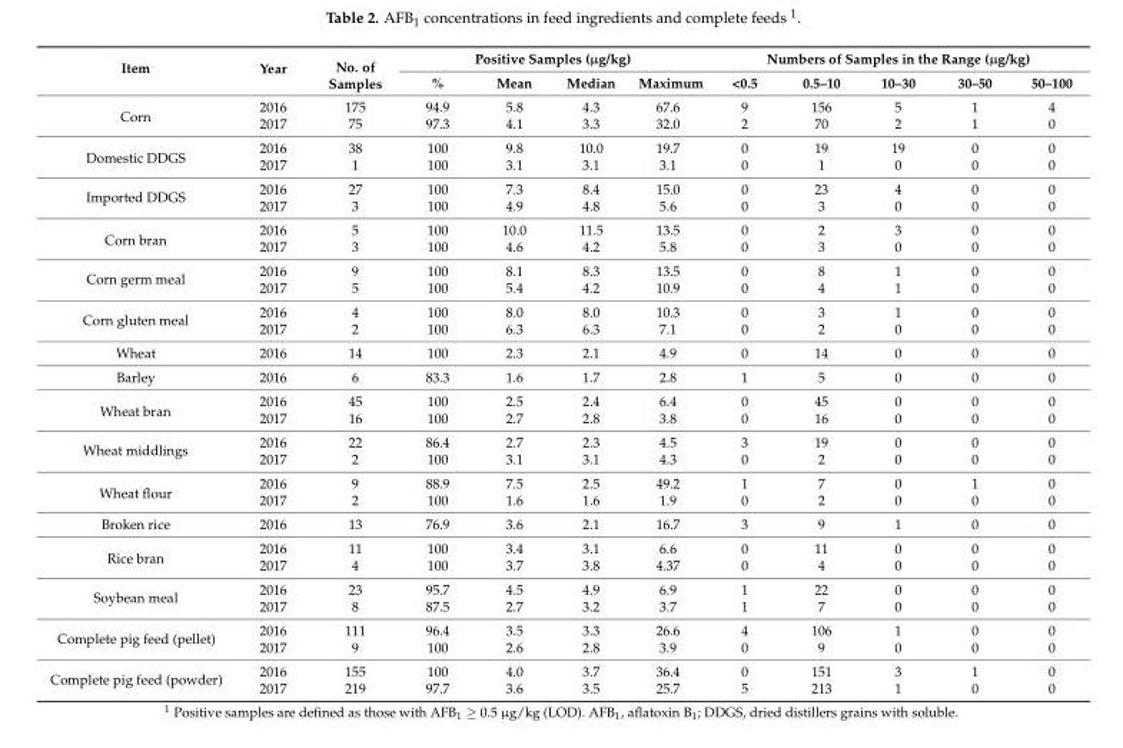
<table><thead><tr><td rowspan="2">Item</td><td rowspan="2">Year</td><td rowspan="2">No. of Samples</td><td colspan="4">Positive Samples (µg/kg)</td><td colspan="5">Numbers of Samples in the Range (µg/kg)</td></tr><tr><td>%</td><td>Mean</td><td>Median</td><td>Maximum</td><td>&lt;0.5</td><td>0.5–10</td><td>10–30</td><td>30–50</td><td>50–100</td></tr></thead><tbody><tr><td rowspan="2">Corn</td><td>2016</td><td>175</td><td>94.9</td><td>5.8</td><td>4.3</td><td>67.6</td><td>9</td><td>156</td><td>5</td><td>1</td><td>4</td></tr><tr><td>2017</td><td>75</td><td>97.3</td><td>4.1</td><td>3.3</td><td>32.0</td><td>2</td><td>70</td><td>2</td><td>1</td><td>0</td></tr><tr><td rowspan="2">Domestic DDGS</td><td>2016</td><td>38</td><td>100</td><td>9.8</td><td>10.0</td><td>19.7</td><td>0</td><td>19</td><td>19</td><td>0</td><td>0</td></tr><tr><td>2017</td><td>1</td><td>100</td><td>3.1</td><td>3.1</td><td>3.1</td><td>0</td><td>1</td><td>0</td><td>0</td><td>0</td></tr><tr><td rowspan="2">Imported DDGS</td><td>2016</td><td>27</td><td>100</td><td>7.3</td><td>8.4</td><td>15.0</td><td>0</td><td>23</td><td>4</td><td>0</td><td>0</td></tr><tr><td>2017</td><td>3</td><td>100</td><td>4.9</td><td>4.8</td><td>5.6</td><td>0</td><td>3</td><td>0</td><td>0</td><td>0</td></tr><tr><td rowspan="2">Corn bran</td><td>2016</td><td>5</td><td>100</td><td>10.0</td><td>11.5</td><td>13.5</td><td>0</td><td>2</td><td>3</td><td>0</td><td>0</td></tr><tr><td>2017</td><td>3</td><td>100</td><td>4.6</td><td>4.2</td><td>5.8</td><td>0</td><td>3</td><td>0</td><td>0</td><td>0</td></tr><tr><td rowspan="2">Corn germ meal</td><td>2016</td><td>9</td><td>100</td><td>8.1</td><td>8.3</td><td>13.5</td><td>0</td><td>8</td><td>1</td><td>0</td><td>0</td></tr><tr><td>2017</td><td>5</td><td>100</td><td>5.4</td><td>4.2</td><td>10.9</td><td>0</td><td>4</td><td>1</td><td>0</td><td>0</td></tr><tr><td rowspan="2">Corn gluten meal</td><td>2016</td><td>4</td><td>100</td><td>8.0</td><td>8.0</td><td>10.3</td><td>0</td><td>3</td><td>1</td><td>0</td><td>0</td></tr><tr><td>2017</td><td>2</td><td>100</td><td>6.3</td><td>6.3</td><td>7.1</td><td>0</td><td>2</td><td>0</td><td>0</td><td>0</td></tr><tr><td>Wheat</td><td>2016</td><td>14</td><td>100</td><td>2.3</td><td>2.1</td><td>4.9</td><td>0</td><td>14</td><td>0</td><td>0</td><td>0</td></tr><tr><td>Barley</td><td>2016</td><td>6</td><td>83.3</td><td>1.6</td><td>1.7</td><td>2.8</td><td>1</td><td>5</td><td>0</td><td>0</td><td>0</td></tr><tr><td rowspan="2">Wheat bran</td><td>2016</td><td>45</td><td>100</td><td>2.5</td><td>2.4</td><td>6.4</td><td>0</td><td>45</td><td>0</td><td>0</td><td>0</td></tr><tr><td>2017</td><td>16</td><td>100</td><td>2.7</td><td>2.8</td><td>3.8</td><td>0</td><td>16</td><td>0</td><td>0</td><td>0</td></tr><tr><td rowspan="2">Wheat middlings</td><td>2016</td><td>22</td><td>86.4</td><td>2.7</td><td>2.3</td><td>4.5</td><td>3</td><td>19</td><td>0</td><td>0</td><td>0</td></tr><tr><td>2017</td><td>2</td><td>100</td><td>3.1</td><td>3.1</td><td>4.3</td><td>0</td><td>2</td><td>0</td><td>0</td><td>0</td></tr><tr><td rowspan="2">Wheat flour</td><td>2016</td><td>9</td><td>88.9</td><td>7.5</td><td>2.5</td><td>49.2</td><td>1</td><td>7</td><td>0</td><td>1</td><td>0</td></tr><tr><td>2017</td><td>2</td><td>100</td><td>1.6</td><td>1.6</td><td>1.9</td><td>0</td><td>2</td><td>0</td><td>0</td><td>0</td></tr><tr><td>Broken rice</td><td>2016</td><td>13</td><td>76.9</td><td>3.6</td><td>2.1</td><td>16.7</td><td>3</td><td>9</td><td>1</td><td>0</td><td>0</td></tr><tr><td rowspan="2">Rice bran</td><td>2016</td><td>11</td><td>100</td><td>3.4</td><td>3.1</td><td>6.6</td><td>0</td><td>11</td><td>0</td><td>0</td><td>0</td></tr><tr><td>2017</td><td>4</td><td>100</td><td>3.7</td><td>3.8</td><td>4.37</td><td>0</td><td>4</td><td>0</td><td>0</td><td>0</td></tr><tr><td rowspan="2">Soybean meal</td><td>2016</td><td>23</td><td>95.7</td><td>4.5</td><td>4.9</td><td>6.9</td><td>1</td><td>22</td><td>0</td><td>0</td><td>0</td></tr><tr><td>2017</td><td>8</td><td>87.5</td><td>2.7</td><td>3.2</td><td>3.7</td><td>1</td><td>7</td><td>0</td><td>0</td><td>0</td></tr><tr><td rowspan="2">Complete pig feed (pellet)</td><td>2016</td><td>111</td><td>96.4</td><td>3.5</td><td>3.3</td><td>26.6</td><td>4</td><td>106</td><td>1</td><td>0</td><td>0</td></tr><tr><td>2017</td><td>9</td><td>100</td><td>2.6</td><td>2.8</td><td>3.9</td><td>0</td><td>9</td><td>0</td><td>0</td><td>0</td></tr><tr><td rowspan="2">Complete pig feed (powder)</td><td>2016</td><td>155</td><td>100</td><td>4.0</td><td>3.7</td><td>36.4</td><td>0</td><td>151</td><td>3</td><td>1</td><td>0</td></tr><tr><td>2017</td><td>219</td><td>97.7</td><td>3.6</td><td>3.5</td><td>25.7</td><td>5</td><td>213</td><td>1</td><td>0</td><td>0</td></tr></tbody></table>